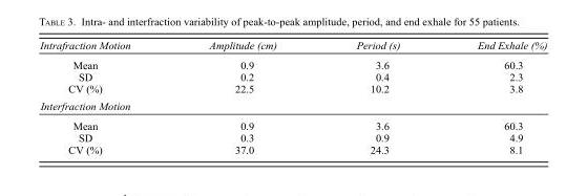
<table><thead><tr><td>Intrafraction Motion</td><td>Amplitude (cm)</td><td>Period (s)</td><td>End Exhale (%)</td></tr></thead><tbody><tr><td>Mean</td><td>0.9</td><td>3.6</td><td>60.3</td></tr><tr><td>SD</td><td>0.2</td><td>0.4</td><td>2.3</td></tr><tr><td>CV (%)</td><td>22.5</td><td>10.2</td><td>3.8</td></tr><tr><td colspan="4">Interfraction Motion</td></tr><tr><td>Mean</td><td>0.9</td><td>3.6</td><td>60.3</td></tr><tr><td>SD</td><td>0.3</td><td>0.9</td><td>4.9</td></tr><tr><td>CV (%)</td><td>37.0</td><td>24.3</td><td>8.1</td></tr></tbody></table>